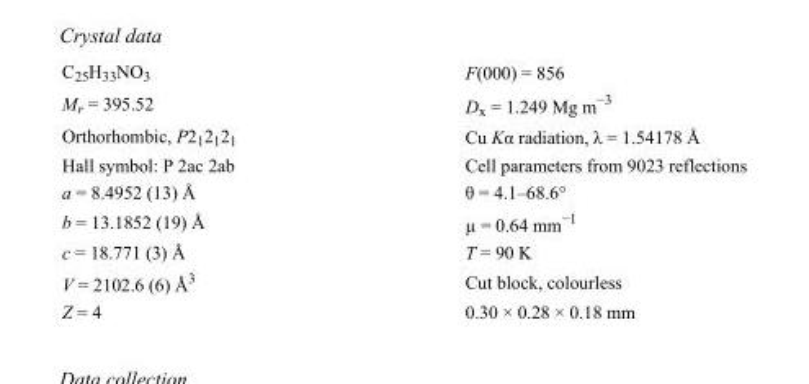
<table><tbody><tr><td>C<sub>25</sub>H<sub>33</sub>NO<sub>3</sub></td><td>F(000) = 856</td></tr><tr><td>M<sub>r</sub> = 395.52</td><td>D<sub>x</sub> = 1.249 Mg m<sup>−3</sup></td></tr><tr><td>Orthorhombic, P2<sub>1</sub>2<sub>1</sub>2<sub>1</sub></td><td>Cu Kα radiation, λ = 1.54178 Å</td></tr><tr><td>Hall symbol: P 2ac 2ab</td><td>Cell parameters from 9023 reflections</td></tr><tr><td>a = 8.4952 (13) Å</td><td>θ = 4.1–68.6°</td></tr><tr><td>b = 13.1852 (19) Å</td><td>µ = 0.64 mm<sup>−1</sup></td></tr><tr><td>c = 18.771 (3) Å</td><td>T = 90 K</td></tr><tr><td>V = 2102.6 (6) Å<sup>3</sup></td><td>Cut block, colourless</td></tr><tr><td>Z = 4</td><td>0.30 × 0.28 × 0.18 mm</td></tr></tbody></table>